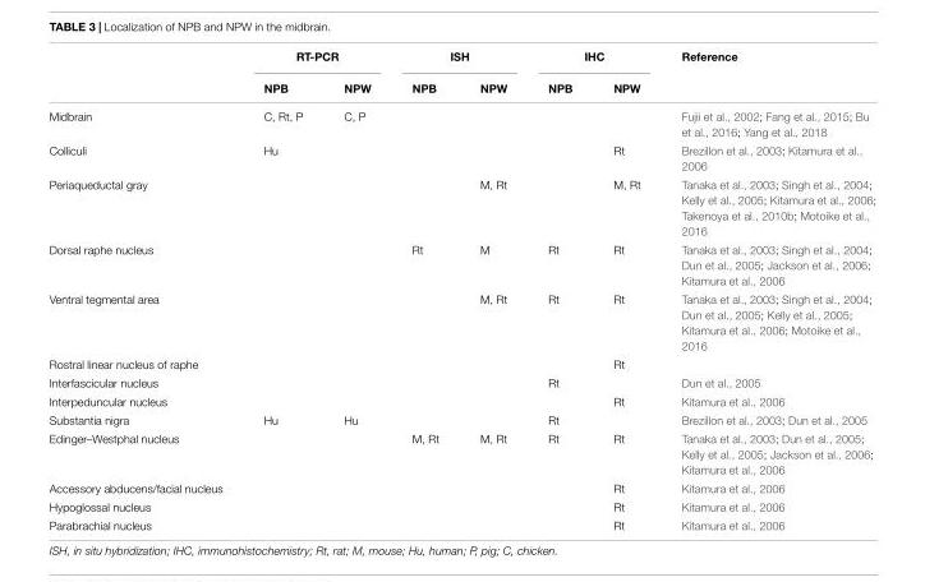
<table><thead><tr><td rowspan="2"></td><td colspan="2">RT-PCR</td><td colspan="2">ISH</td><td colspan="2">IHC</td><td rowspan="2">Reference</td></tr><tr><td>NPB</td><td>NPW</td><td>NPB</td><td>NPW</td><td>NPB</td><td>NPW</td></tr></thead><tbody><tr><td>Midbrain</td><td>C, Rt, P</td><td>C, P</td><td></td><td></td><td></td><td></td><td>Fujii et al., 2002; Fang et al., 2015; Bu et al., 2016; Yang et al., 2018</td></tr><tr><td>Colliculi</td><td>Hu</td><td></td><td></td><td></td><td></td><td>Rt</td><td>Brezillon et al., 2003; Kitamura et al., 2006</td></tr><tr><td>Periaqueductal gray</td><td></td><td></td><td></td><td>M, Rt</td><td></td><td>M, Rt</td><td>Tanaka et al., 2003; Singh et al., 2004; Kelly et al., 2005; Kitamura et al., 2006; Takenoya et al., 2010b; Motoike et al., 2016</td></tr><tr><td>Dorsal raphe nucleus</td><td></td><td></td><td>Rt</td><td>M</td><td>Rt</td><td>Rt</td><td>Tanaka et al., 2003; Singh et al., 2004; Dun et al., 2005; Jackson et al., 2006; Kitamura et al., 2006</td></tr><tr><td>Ventral tegmental area</td><td></td><td></td><td></td><td>M, Rt</td><td>Rt</td><td>Rt</td><td>Tanaka et al., 2003; Singh et al., 2004; Dun et al., 2005; Kelly et al., 2005; Kitamura et al., 2006; Motoike et al., 2016</td></tr><tr><td>Rostral linear nucleus of raphe</td><td></td><td></td><td></td><td></td><td></td><td>Rt</td><td></td></tr><tr><td>Interfascicular nucleus</td><td></td><td></td><td></td><td></td><td>Rt</td><td></td><td>Dun et al., 2005</td></tr><tr><td>Interpeduncular nucleus</td><td></td><td></td><td></td><td></td><td></td><td>Rt</td><td>Kitamura et al., 2006</td></tr><tr><td>Substantia nigra</td><td>Hu</td><td>Hu</td><td></td><td></td><td>Rt</td><td></td><td>Brezillon et al., 2003; Dun et al., 2005</td></tr><tr><td>Edinger–Westphal nucleus</td><td></td><td></td><td>M, Rt</td><td>M, Rt</td><td>Rt</td><td>Rt</td><td>Tanaka et al., 2003; Dun et al., 2005; Kelly et al., 2005; Jackson et al., 2006; Kitamura et al., 2006</td></tr><tr><td>Accessory abducens/facial nucleus</td><td></td><td></td><td></td><td></td><td></td><td>Rt</td><td>Kitamura et al., 2006</td></tr><tr><td>Hypoglossal nucleus</td><td></td><td></td><td></td><td></td><td></td><td>Rt</td><td>Kitamura et al., 2006</td></tr><tr><td>Parabrachial nucleus</td><td></td><td></td><td></td><td></td><td></td><td>Rt</td><td>Kitamura et al., 2006</td></tr></tbody></table>